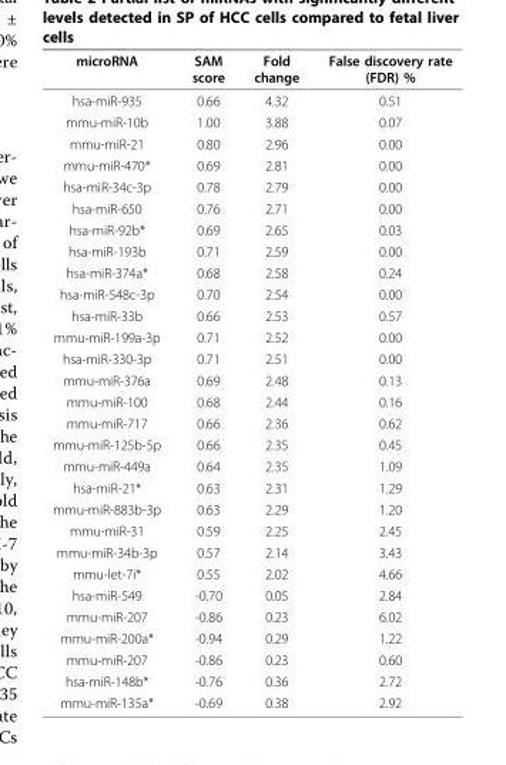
<table><thead><tr><td>microRNA</td><td>SAM score</td><td>Fold change</td><td>False discovery rate (FDR) %</td></tr></thead><tbody><tr><td>hsa-miR-935</td><td>0.66</td><td>4.32</td><td>0.51</td></tr><tr><td>mmu-miR-10b</td><td>1.00</td><td>3.88</td><td>0.07</td></tr><tr><td>mmu-miR-21</td><td>0.80</td><td>2.96</td><td>0.00</td></tr><tr><td>mmu-miR-470*</td><td>0.69</td><td>2.81</td><td>0.00</td></tr><tr><td>hsa-miR-34c-3p</td><td>0.78</td><td>2.79</td><td>0.00</td></tr><tr><td>hsa-miR-650</td><td>0.76</td><td>2.71</td><td>0.00</td></tr><tr><td>hsa-miR-92b*</td><td>0.69</td><td>2.65</td><td>0.03</td></tr><tr><td>hsa-miR-193b</td><td>0.71</td><td>2.59</td><td>0.00</td></tr><tr><td>hsa-miR-374a*</td><td>0.68</td><td>2.58</td><td>0.24</td></tr><tr><td>hsa-miR-548c-3p</td><td>0.70</td><td>2.54</td><td>0.00</td></tr><tr><td>hsa-miR-33b</td><td>0.66</td><td>2.53</td><td>0.57</td></tr><tr><td>mmu-miR-199a-3p</td><td>0.71</td><td>2.52</td><td>0.00</td></tr><tr><td>hsa-miR-330-3p</td><td>0.71</td><td>2.51</td><td>0.00</td></tr><tr><td>mmu-miR-376a</td><td>0.69</td><td>2.48</td><td>0.13</td></tr><tr><td>mmu-miR-100</td><td>0.68</td><td>2.44</td><td>0.16</td></tr><tr><td>mmu-miR-717</td><td>0.66</td><td>2.36</td><td>0.62</td></tr><tr><td>mmu-miR-125b-5p</td><td>0.66</td><td>2.35</td><td>0.45</td></tr><tr><td>mmu-miR-449a</td><td>0.64</td><td>2.35</td><td>1.09</td></tr><tr><td>hsa-miR-21*</td><td>0.63</td><td>2.31</td><td>1.29</td></tr><tr><td>mmu-miR-883b-3p</td><td>0.63</td><td>2.29</td><td>1.20</td></tr><tr><td>mmu-miR-31</td><td>0.59</td><td>2.25</td><td>2.45</td></tr><tr><td>mmu-miR-34b-3p</td><td>0.57</td><td>2.14</td><td>3.43</td></tr><tr><td>mmu-let-7i*</td><td>0.55</td><td>2.02</td><td>4.66</td></tr><tr><td>hsa-miR-549</td><td>-0.70</td><td>0.05</td><td>2.84</td></tr><tr><td>mmu-miR-207</td><td>-0.86</td><td>0.23</td><td>6.02</td></tr><tr><td>mmu-miR-200a*</td><td>-0.94</td><td>0.29</td><td>1.22</td></tr><tr><td>mmu-miR-207</td><td>-0.86</td><td>0.23</td><td>0.60</td></tr><tr><td>hsa-miR-148b*</td><td>-0.76</td><td>0.36</td><td>2.72</td></tr><tr><td>mmu-miR-135a*</td><td>-0.69</td><td>0.38</td><td>2.92</td></tr></tbody></table>